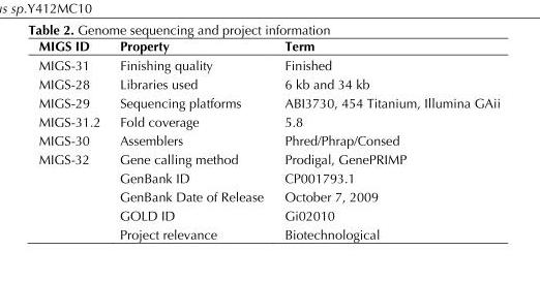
<table><thead><tr><td>MIGS ID</td><td>Property</td><td>Term</td></tr></thead><tbody><tr><td>MIGS-31</td><td>Finishing quality</td><td>Finished</td></tr><tr><td>MIGS-28</td><td>Libraries used</td><td>6 kb and 34 kb</td></tr><tr><td>MIGS-29</td><td>Sequencing platforms</td><td>ABI3730, 454 Titanium, Illumina GAii</td></tr><tr><td>MIGS-31.2</td><td>Fold coverage</td><td>5.8</td></tr><tr><td>MIGS-30</td><td>Assemblers</td><td>Phred/Phrap/Consed</td></tr><tr><td rowspan="5">MIGS-32</td><td>Gene calling method</td><td>Prodigal, GenePRIMP</td></tr><tr><td>GenBank ID</td><td>CP001793.1</td></tr><tr><td>GenBank Date of Release</td><td>October 7, 2009</td></tr><tr><td>GOLD ID</td><td>Gi02010</td></tr><tr><td>Project relevance</td><td>Biotechnological</td></tr></tbody></table>